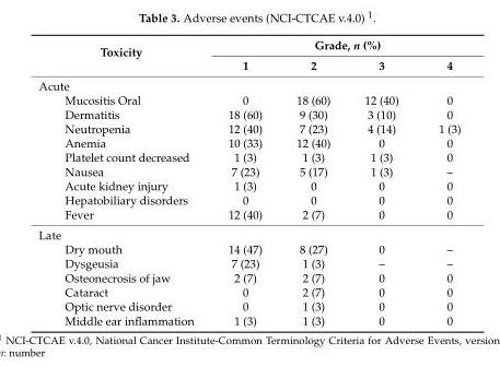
<table><thead><tr><td rowspan="2">Toxicity</td><td colspan="4">Grade, n (%)</td></tr><tr><td>1</td><td>2</td><td>3</td><td>4</td></tr></thead><tbody><tr><td colspan="5">Acute</td></tr><tr><td>Mucositis Oral</td><td>0</td><td>18 (60)</td><td>12 (40)</td><td>0</td></tr><tr><td>Dermatitis</td><td>18 (60)</td><td>9 (30)</td><td>3 (10)</td><td>0</td></tr><tr><td>Neutropenia</td><td>12 (40)</td><td>7 (23)</td><td>4 (14)</td><td>1 (3)</td></tr><tr><td>Anemia</td><td>10 (33)</td><td>12 (40)</td><td>0</td><td>0</td></tr><tr><td>Platelet count decreased</td><td>1 (3)</td><td>1 (3)</td><td>1 (3)</td><td>0</td></tr><tr><td>Nausea</td><td>7 (23)</td><td>5 (17)</td><td>1 (3)</td><td>–</td></tr><tr><td>Acute kidney injury</td><td>1 (3)</td><td>0</td><td>0</td><td>0</td></tr><tr><td>Hepatobiliary disorders</td><td>0</td><td>0</td><td>0</td><td>0</td></tr><tr><td>Fever</td><td>12 (40)</td><td>2 (7)</td><td>0</td><td>0</td></tr><tr><td colspan="5">Late</td></tr><tr><td>Dry mouth</td><td>14 (47)</td><td>8 (27)</td><td>0</td><td>–</td></tr><tr><td>Dysgeusia</td><td>7 (23)</td><td>1 (3)</td><td>–</td><td>–</td></tr><tr><td>Osteonecrosis of jaw</td><td>2 (7)</td><td>2 (7)</td><td>0</td><td>0</td></tr><tr><td>Cataract</td><td>0</td><td>2 (7)</td><td>0</td><td>0</td></tr><tr><td>Optic nerve disorder</td><td>0</td><td>1 (3)</td><td>0</td><td>0</td></tr><tr><td>Middle ear inflammation</td><td>1 (3)</td><td>1 (3)</td><td>0</td><td>0</td></tr></tbody></table>